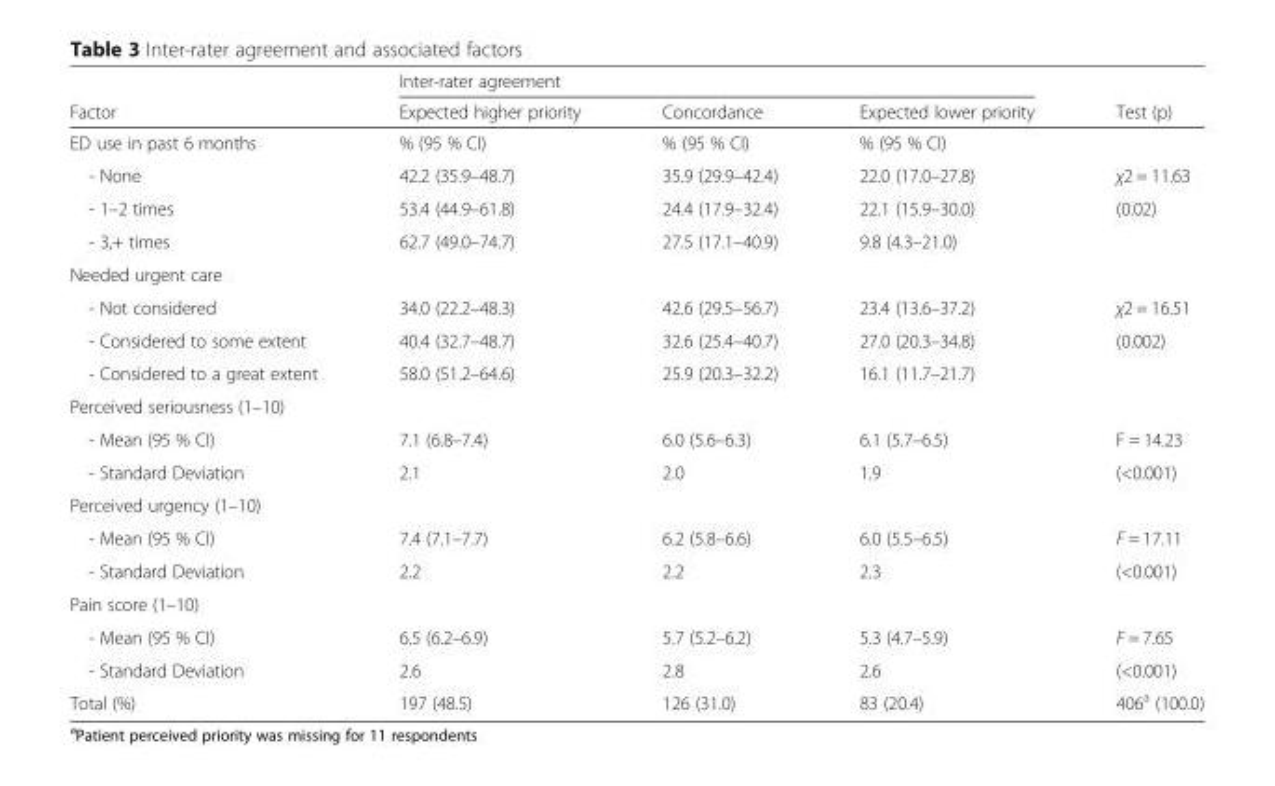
<table><thead><tr><td rowspan="2">Factor</td><td colspan="3">Inter-rater agreement</td><td rowspan="2">Test (p)</td></tr><tr><td>Expected higher priority</td><td>Concordance</td><td>Expected lower priority</td></tr></thead><tbody><tr><td>ED use in past 6 months</td><td>% (95 % CI)</td><td>% (95 % CI)</td><td>% (95 % CI)</td><td></td></tr><tr><td>- None</td><td>42.2 (35.9–48.7)</td><td>35.9 (29.9–42.4)</td><td>22.0 (17.0–27.8)</td><td>χ2 = 11.63</td></tr><tr><td>- 1–2 times</td><td>53.4 (44.9–61.8)</td><td>24.4 (17.9–32.4)</td><td>22.1 (15.9–30.0)</td><td>(0.02)</td></tr><tr><td>- 3,+ times</td><td>62.7 (49.0–74.7)</td><td>27.5 (17.1–40.9)</td><td>9.8 (4.3–21.0)</td><td></td></tr><tr><td colspan="5">Needed urgent care</td></tr><tr><td>- Not considered</td><td>34.0 (22.2–48.3)</td><td>42.6 (29.5–56.7)</td><td>23.4 (13.6–37.2)</td><td>χ2 = 16.51</td></tr><tr><td>- Considered to some extent</td><td>40.4 (32.7–48.7)</td><td>32.6 (25.4–40.7)</td><td>27.0 (20.3–34.8)</td><td>(0.002)</td></tr><tr><td>- Considered to a great extent</td><td>58.0 (51.2–64.6)</td><td>25.9 (20.3–32.2)</td><td>16.1 (11.7–21.7)</td><td></td></tr><tr><td colspan="5">Perceived seriousness (1–10)</td></tr><tr><td>- Mean (95 % CI)</td><td>7.1 (6.8–7.4)</td><td>6.0 (5.6–6.3)</td><td>6.1 (5.7–6.5)</td><td>F = 14.23</td></tr><tr><td>- Standard Deviation</td><td>2.1</td><td>2.0</td><td>1.9</td><td>(&lt;0.001)</td></tr><tr><td colspan="5">Perceived urgency (1–10)</td></tr><tr><td>- Mean (95 % CI)</td><td>7.4 (7.1–7.7)</td><td>6.2 (5.8–6.6)</td><td>6.0 (5.5–6.5)</td><td>F = 17.11</td></tr><tr><td>- Standard Deviation</td><td>2.2</td><td>2.2</td><td>2.3</td><td>(&lt;0.001)</td></tr><tr><td colspan="5">Pain score (1–10)</td></tr><tr><td>- Mean (95 % CI)</td><td>6.5 (6.2–6.9)</td><td>5.7 (5.2–6.2)</td><td>5.3 (4.7–5.9)</td><td>F = 7.65</td></tr><tr><td>- Standard Deviation</td><td>2.6</td><td>2.8</td><td>2.6</td><td>(&lt;0.001)</td></tr><tr><td>Total (%)</td><td>197 (48.5)</td><td>126 (31.0)</td><td>83 (20.4)</td><td>406<sup>a</sup> (100.0)</td></tr></tbody></table>